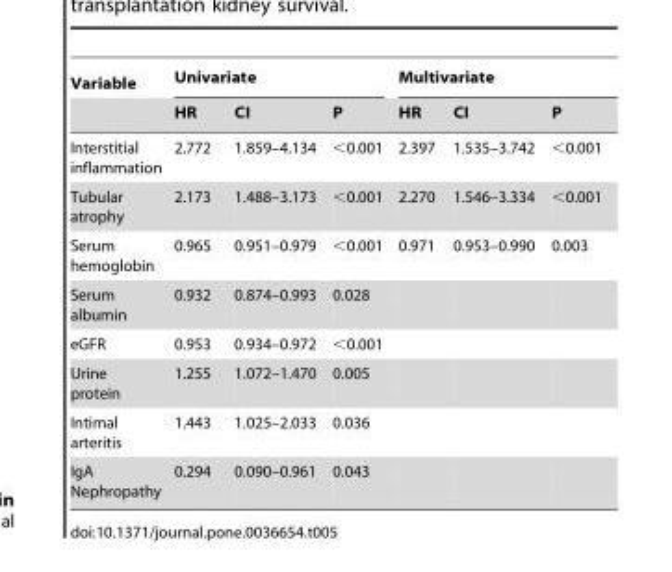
<table><thead><tr><td rowspan="2">Variable</td><td colspan="3">Univariate</td><td colspan="3">Multivariate</td></tr><tr><td>HR</td><td>CI</td><td>P</td><td>HR</td><td>CI</td><td>P</td></tr></thead><tbody><tr><td>Interstitial inflammation</td><td>2.772</td><td>1.859–4.134</td><td>&lt;0.001</td><td>2.397</td><td>1.535–3.742</td><td>&lt;0.001</td></tr><tr><td>Tubular atrophy</td><td>2.173</td><td>1.488–3.173</td><td>&lt;0.001</td><td>2.270</td><td>1.546–3.334</td><td>&lt;0.001</td></tr><tr><td>Serum hemoglobin</td><td>0.965</td><td>0.951–0.979</td><td>&lt;0.001</td><td>0.971</td><td>0.953–0.990</td><td>0.003</td></tr><tr><td>Serum albumin</td><td>0.932</td><td>0.874–0.993</td><td>0.028</td><td></td><td></td><td></td></tr><tr><td>eGFR</td><td>0.953</td><td>0.934–0.972</td><td>&lt;0.001</td><td></td><td></td><td></td></tr><tr><td>Urine protein</td><td>1.255</td><td>1.072–1.470</td><td>0.005</td><td></td><td></td><td></td></tr><tr><td>Intimal arteritis</td><td>1.443</td><td>1.025–2.033</td><td>0.036</td><td></td><td></td><td></td></tr><tr><td>IgA Nephropathy</td><td>0.294</td><td>0.090–0.961</td><td>0.043</td><td></td><td></td><td></td></tr></tbody></table>